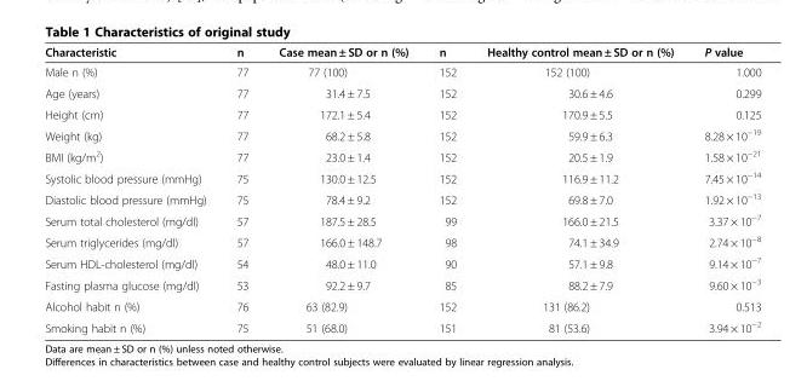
<table><thead><tr><td>Characteristic</td><td>n</td><td>Case mean ± SD or n (%)</td><td>n</td><td>Healthy control mean ± SD or n (%)</td><td>P value</td></tr></thead><tbody><tr><td>Male n (%)</td><td>77</td><td>77 (100)</td><td>152</td><td>152 (100)</td><td>1.000</td></tr><tr><td>Age (years)</td><td>77</td><td>31.4 ± 7.5</td><td>152</td><td>30.6 ± 4.6</td><td>0.299</td></tr><tr><td>Height (cm)</td><td>77</td><td>172.1 ± 5.4</td><td>152</td><td>170.9 ± 5.5</td><td>0.125</td></tr><tr><td>Weight (kg)</td><td>77</td><td>68.2 ± 5.8</td><td>152</td><td>59.9 ± 6.3</td><td>8.28 × 10<sup>−19</sup></td></tr><tr><td>BMI (kg/m<sup>2</sup>)</td><td>77</td><td>23.0 ± 1.4</td><td>152</td><td>20.5 ± 1.9</td><td>1.58 × 10<sup>−21</sup></td></tr><tr><td>Systolic blood pressure (mmHg)</td><td>75</td><td>130.0 ± 12.5</td><td>152</td><td>116.9 ± 11.2</td><td>7.45 × 10<sup>−14</sup></td></tr><tr><td>Diastolic blood pressure (mmHg)</td><td>75</td><td>78.4 ± 9.2</td><td>152</td><td>69.8 ± 7.0</td><td>1.92 × 10<sup>−13</sup></td></tr><tr><td>Serum total cholesterol (mg/dl)</td><td>57</td><td>187.5 ± 28.5</td><td>99</td><td>166.0 ± 21.5</td><td>3.37 × 10<sup>−7</sup></td></tr><tr><td>Serum triglycerides (mg/dl)</td><td>57</td><td>166.0 ± 148.7</td><td>98</td><td>74.1 ± 34.9</td><td>2.74 × 10<sup>−8</sup></td></tr><tr><td>Serum HDL-cholesterol (mg/dl)</td><td>54</td><td>48.0 ± 11.0</td><td>90</td><td>57.1 ± 9.8</td><td>9.14 × 10<sup>−7</sup></td></tr><tr><td>Fasting plasma glucose (mg/dl)</td><td>53</td><td>92.2 ± 9.7</td><td>85</td><td>88.2 ± 7.9</td><td>9.60 × 10<sup>−3</sup></td></tr><tr><td>Alcohol habit n (%)</td><td>76</td><td>63 (82.9)</td><td>152</td><td>131 (86.2)</td><td>0.513</td></tr><tr><td>Smoking habit n (%)</td><td>75</td><td>51 (68.0)</td><td>151</td><td>81 (53.6)</td><td>3.94 × 10<sup>−2</sup></td></tr></tbody></table>